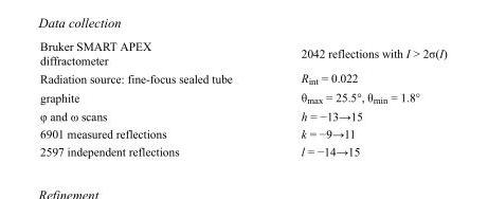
<table><tbody><tr><td>Bruker SMART APEX diffractometer</td><td>2042 reflections with I &gt; 2σ(I)</td></tr><tr><td>Radiation source: fine-focus sealed tube</td><td>R<sub>int</sub> = 0.022</td></tr><tr><td>graphite</td><td>θ<sub>max</sub> = 25.5°, θ<sub>min</sub> = 1.8°</td></tr><tr><td>φ and ω scans</td><td>h = −13→15</td></tr><tr><td>6901 measured reflections</td><td>k = −9→11</td></tr><tr><td>2597 independent reflections</td><td>l = −14→15</td></tr></tbody></table>